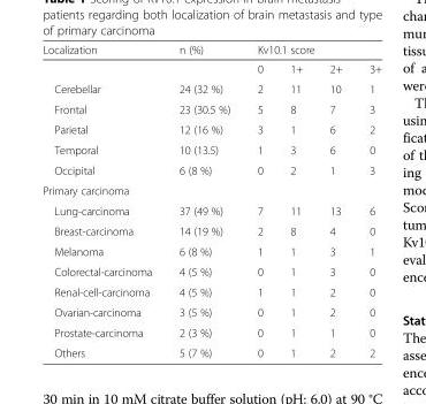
<table><thead><tr><td rowspan="2">Localization</td><td rowspan="2">n (%)</td><td colspan="4">Kv10.1 score</td></tr><tr><td>0</td><td>1+</td><td>2+</td><td>3+</td></tr></thead><tbody><tr><td>Cerebellar</td><td>24 (32 %)</td><td>2</td><td>11</td><td>10</td><td>1</td></tr><tr><td>Frontal</td><td>23 (30.5 %)</td><td>5</td><td>8</td><td>7</td><td>3</td></tr><tr><td>Parietal</td><td>12 (16 %)</td><td>3</td><td>1</td><td>6</td><td>2</td></tr><tr><td>Temporal</td><td>10 (13.5)</td><td>1</td><td>3</td><td>6</td><td>0</td></tr><tr><td>Occipital</td><td>6 (8 %)</td><td>0</td><td>2</td><td>1</td><td>3</td></tr><tr><td colspan="6">Primary carcinoma</td></tr><tr><td>Lung-carcinoma</td><td>37 (49 %)</td><td>7</td><td>11</td><td>13</td><td>6</td></tr><tr><td>Breast-carcinoma</td><td>14 (19 %)</td><td>2</td><td>8</td><td>4</td><td>0</td></tr><tr><td>Melanoma</td><td>6 (8 %)</td><td>1</td><td>1</td><td>3</td><td>1</td></tr><tr><td>Colorectal-carcinoma</td><td>4 (5 %)</td><td>0</td><td>1</td><td>3</td><td>0</td></tr><tr><td>Renal-cell-carcinoma</td><td>4 (5 %)</td><td>1</td><td>1</td><td>2</td><td>0</td></tr><tr><td>Ovarian-carcinoma</td><td>3 (5 %)</td><td>0</td><td>1</td><td>2</td><td>0</td></tr><tr><td>Prostate-carcinoma</td><td>2 (3 %)</td><td>0</td><td>1</td><td>1</td><td>0</td></tr><tr><td>Others</td><td>5 (7 %)</td><td>0</td><td>1</td><td>2</td><td>2</td></tr></tbody></table>